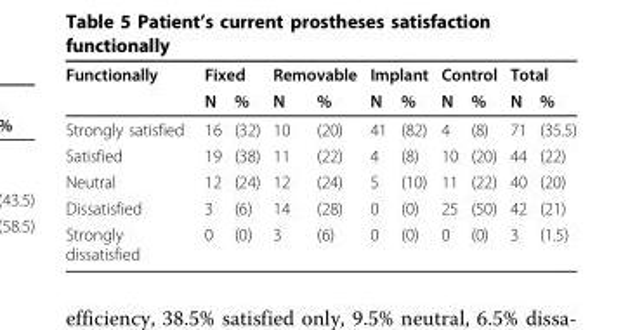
<table><thead><tr><td rowspan="2">Functionally</td><td colspan="2">Fixed</td><td colspan="2">Removable</td><td colspan="2">Implant</td><td colspan="2">Control</td><td colspan="2">Total</td></tr><tr><td>N</td><td>%</td><td>N</td><td>%</td><td>N</td><td>%</td><td>N</td><td>%</td><td>N</td><td>%</td></tr></thead><tbody><tr><td>Strongly satisfied</td><td>16</td><td>(32)</td><td>10</td><td>(20)</td><td>41</td><td>(82)</td><td>4</td><td>(8)</td><td>71</td><td>(35.5)</td></tr><tr><td>Satisfied</td><td>19</td><td>(38)</td><td>11</td><td>(22)</td><td>4</td><td>(8)</td><td>10</td><td>(20)</td><td>44</td><td>(22)</td></tr><tr><td>Neutral</td><td>12</td><td>(24)</td><td>12</td><td>(24)</td><td>5</td><td>(10)</td><td>11</td><td>(22)</td><td>40</td><td>(20)</td></tr><tr><td>Dissatisfied</td><td>3</td><td>(6)</td><td>14</td><td>(28)</td><td>0</td><td>(0)</td><td>25</td><td>(50)</td><td>42</td><td>(21)</td></tr><tr><td>Strongly dissatisfied</td><td>0</td><td>(0)</td><td>3</td><td>(6)</td><td>0</td><td>(0)</td><td>0</td><td>(0)</td><td>3</td><td>(1.5)</td></tr></tbody></table>